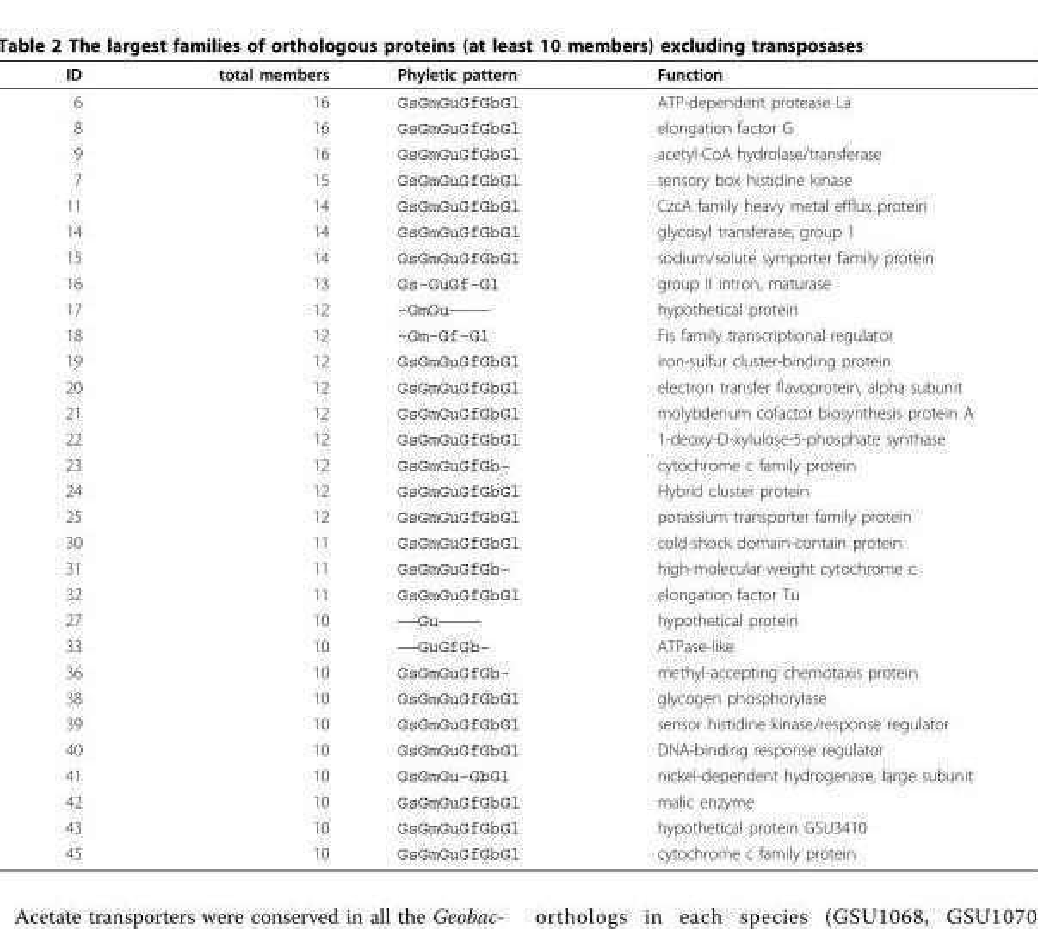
<table><thead><tr><td>ID</td><td>total members</td><td>Phyletic pattern</td><td>Function</td></tr></thead><tbody><tr><td>6</td><td>16</td><td>GsGmGuGfGbGl</td><td>ATP-dependent protease La</td></tr><tr><td>8</td><td>16</td><td>GsGmGuGfGbGl</td><td>elongation factor G</td></tr><tr><td>9</td><td>16</td><td>GsGmGuGfGbGl</td><td>acetyl-CoA hydrolase/transferase</td></tr><tr><td>7</td><td>15</td><td>GsGmGuGfGbGl</td><td>sensory box histidine kinase</td></tr><tr><td>11</td><td>14</td><td>GsGmGuGfGbGl</td><td>CzcA family heavy metal efflux protein</td></tr><tr><td>14</td><td>14</td><td>GsGmGuGfGbGl</td><td>glycosyl transferase, group 1</td></tr><tr><td>15</td><td>14</td><td>GsGmGuGfGbGl</td><td>sodium/solute symporter family protein</td></tr><tr><td>16</td><td>13</td><td>Gs–GuGf–Gl</td><td>group II intron, maturase</td></tr><tr><td>17</td><td>12</td><td>–GmGu————</td><td>hypothetical protein</td></tr><tr><td>18</td><td>12</td><td>–Gm–Gf–Gl</td><td>Fis family transcriptional regulator</td></tr><tr><td>19</td><td>12</td><td>GsGmGuGfGbGl</td><td>iron-sulfur cluster-binding protein</td></tr><tr><td>20</td><td>12</td><td>GsGmGuGfGbGl</td><td>electron transfer flavoprotein, alpha subunit</td></tr><tr><td>21</td><td>12</td><td>GsGmGuGfGbGl</td><td>molybdenum cofactor biosynthesis protein A</td></tr><tr><td>22</td><td>12</td><td>GsGmGuGfGbGl</td><td>1-deoxy-D-xylulose-5-phosphate synthase</td></tr><tr><td>23</td><td>12</td><td>GsGmGuGfGb–</td><td>cytochrome c family protein</td></tr><tr><td>24</td><td>12</td><td>GsGmGuGfGbGl</td><td>Hybrid cluster protein</td></tr><tr><td>25</td><td>12</td><td>GsGmGuGfGbGl</td><td>potassium transporter family protein</td></tr><tr><td>30</td><td>11</td><td>GsGmGuGfGbGl</td><td>cold-shock domain-contain protein</td></tr><tr><td>31</td><td>11</td><td>GsGmGuGfGb–</td><td>high-molecular-weight cytochrome c</td></tr><tr><td>32</td><td>11</td><td>GsGmGuGfGbGl</td><td>elongation factor Tu</td></tr><tr><td>27</td><td>10</td><td>——Gu————</td><td>hypothetical protein</td></tr><tr><td>33</td><td>10</td><td>——GuGfGb–</td><td>ATPase-like</td></tr><tr><td>36</td><td>10</td><td>GsGmGuGfGb–</td><td>methyl-accepting chemotaxis protein</td></tr><tr><td>38</td><td>10</td><td>GsGmGuGfGbGl</td><td>glycogen phosphorylase</td></tr><tr><td>39</td><td>10</td><td>GsGmGuGfGbGl</td><td>sensor histidine kinase/response regulator</td></tr><tr><td>40</td><td>10</td><td>GsGmGuGfGbGl</td><td>DNA-binding response regulator</td></tr><tr><td>41</td><td>10</td><td>GsGmGu–GbGl</td><td>nickel-dependent hydrogenase, large subunit</td></tr><tr><td>42</td><td>10</td><td>GsGmGuGfGbGl</td><td>malic enzyme</td></tr><tr><td>43</td><td>10</td><td>GsGmGuGfGbGl</td><td>hypothetical protein GSU3410</td></tr><tr><td>45</td><td>10</td><td>GsGmGuGfGbGl</td><td>cytochrome c family protein</td></tr></tbody></table>